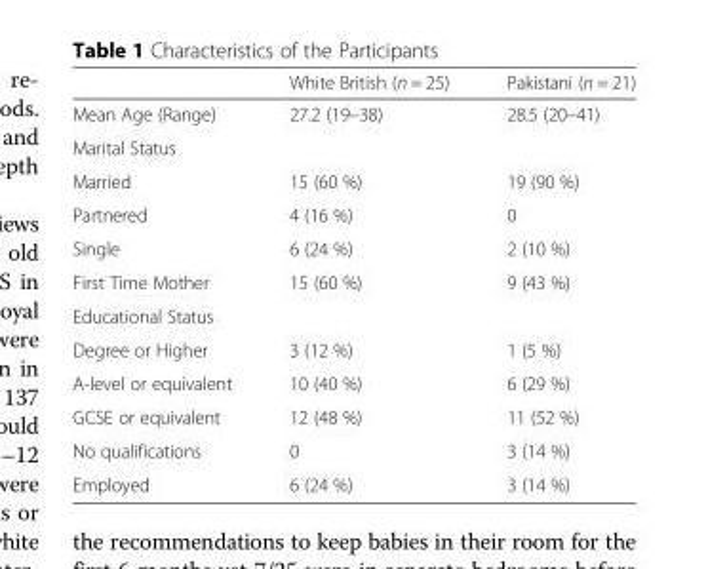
<table><thead><tr><td></td><td>White British (n = 25)</td><td>Pakistani (n = 21)</td></tr></thead><tbody><tr><td>Mean Age (Range)</td><td>27.2 (19–38)</td><td>28.5 (20–41)</td></tr><tr><td colspan="3">Marital Status</td></tr><tr><td>Married</td><td>15 (60 %)</td><td>19 (90 %)</td></tr><tr><td>Partnered</td><td>4 (16 %)</td><td>0</td></tr><tr><td>Single</td><td>6 (24 %)</td><td>2 (10 %)</td></tr><tr><td>First Time Mother</td><td>15 (60 %)</td><td>9 (43 %)</td></tr><tr><td colspan="3">Educational Status</td></tr><tr><td>Degree or Higher</td><td>3 (12 %)</td><td>1 (5 %)</td></tr><tr><td>A-level or equivalent</td><td>10 (40 %)</td><td>6 (29 %)</td></tr><tr><td>GCSE or equivalent</td><td>12 (48 %)</td><td>11 (52 %)</td></tr><tr><td>No qualifications</td><td>0</td><td>3 (14 %)</td></tr><tr><td>Employed</td><td>6 (24 %)</td><td>3 (14 %)</td></tr></tbody></table>